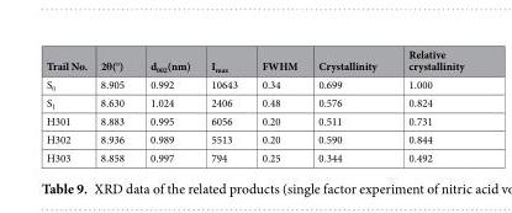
<table><thead><tr><td>Trail No.</td><td>2θ(°)</td><td>d<sub>002</sub>(nm)</td><td>I<sub>max</sub></td><td>FWHM</td><td>Crystallinity</td><td>Relative crystallinity</td></tr></thead><tbody><tr><td>S<sub>0</sub></td><td>8.905</td><td>0.992</td><td>10643</td><td>0.34</td><td>0.699</td><td>1.000</td></tr><tr><td>S<sub>1</sub></td><td>8.630</td><td>1.024</td><td>2406</td><td>0.48</td><td>0.576</td><td>0.824</td></tr><tr><td>H301</td><td>8.883</td><td>0.995</td><td>6056</td><td>0.20</td><td>0.511</td><td>0.731</td></tr><tr><td>H302</td><td>8.936</td><td>0.989</td><td>5513</td><td>0.20</td><td>0.590</td><td>0.844</td></tr><tr><td>H303</td><td>8.858</td><td>0.997</td><td>794</td><td>0.25</td><td>0.344</td><td>0.492</td></tr></tbody></table>